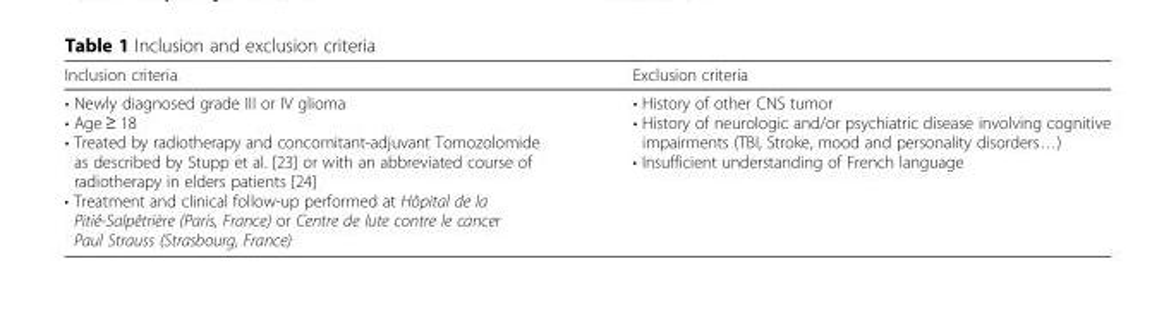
<table><thead><tr><td>Inclusion criteria</td><td>Exclusion criteria</td></tr></thead><tbody><tr><td>• Newly diagnosed grade III or IV glioma • Age ≥ 18 • Treated by radiotherapy and concomitant-adjuvant Tomozolomide as described by Stupp et al. [23] or with an abbreviated course of radiotherapy in elders patients [24] • Treatment and clinical follow-up performed at Hôpital de la Pitié-Salpêtrière (Paris, France) or Centre de lute contre le cancer Paul Strauss (Strasbourg, France)</td><td>• History of other CNS tumor • History of neurologic and/or psychiatric disease involving cognitive impairments (TBI, Stroke, mood and personality disorders…) • Insufficient understanding of French language</td></tr></tbody></table>